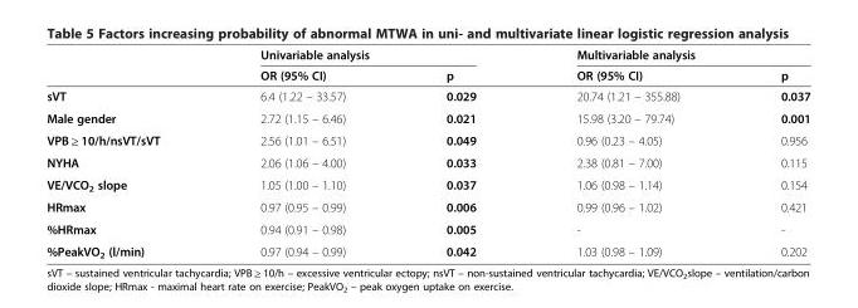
<table><thead><tr><td rowspan="2"></td><td colspan="2">Univariable analysis</td><td colspan="2">Multivariable analysis</td></tr><tr><td>OR (95% CI)</td><td>p</td><td>OR (95% CI)</td><td>p</td></tr></thead><tbody><tr><td>sVT</td><td>6.4 (1.22 – 33.57)</td><td>0.029</td><td>20.74 (1.21 – 355.88)</td><td>0.037</td></tr><tr><td>Male gender</td><td>2.72 (1.15 – 6.46)</td><td>0.021</td><td>15.98 (3.20 – 79.74)</td><td>0.001</td></tr><tr><td>VPB ≥ 10/h/nsVT/sVT</td><td>2.56 (1.01 – 6.51)</td><td>0.049</td><td>0.96 (0.23 – 4.05)</td><td>0.956</td></tr><tr><td>NYHA</td><td>2.06 (1.06 – 4.00)</td><td>0.033</td><td>2.38 (0.81 – 7.00)</td><td>0.115</td></tr><tr><td>VE/VCO<sub>2</sub> slope</td><td>1.05 (1.00 – 1.10)</td><td>0.037</td><td>1.06 (0.98 – 1.14)</td><td>0.154</td></tr><tr><td>HRmax</td><td>0.97 (0.95 – 0.99)</td><td>0.006</td><td>0.99 (0.96 – 1.02)</td><td>0.421</td></tr><tr><td>%HRmax</td><td>0.94 (0.91 – 0.98)</td><td>0.005</td><td>-</td><td>-</td></tr><tr><td>%PeakVO<sub>2</sub> (l/min)</td><td>0.97 (0.94 – 0.99)</td><td>0.042</td><td>1.03 (0.98 – 1.09)</td><td>0.202</td></tr></tbody></table>